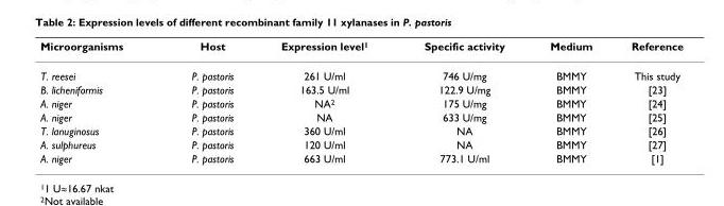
<table><thead><tr><td>Microorganisms</td><td>Host</td><td>Expression level<sup>1</sup></td><td>Specific activity</td><td>Medium</td><td>Reference</td></tr></thead><tbody><tr><td>T. reesei</td><td>P. pastoris</td><td>261 U/ml</td><td>746 U/mg</td><td>BMMY</td><td>This study</td></tr><tr><td>B. licheniformis</td><td>P. pastoris</td><td>163.5 U/ml</td><td>122.9 U/mg</td><td>BMMY</td><td>[23]</td></tr><tr><td>A. niger</td><td>P. pastoris</td><td>NA<sup>2</sup></td><td>175 U/mg</td><td>BMMY</td><td>[24]</td></tr><tr><td>A. niger</td><td>P. pastoris</td><td>NA</td><td>633 U/mg</td><td>BMMY</td><td>[25]</td></tr><tr><td>T. lanuginosus</td><td>P. pastoris</td><td>360 U/ml</td><td>NA</td><td>BMMY</td><td>[26]</td></tr><tr><td>A. sulphureus</td><td>P. pastoris</td><td>120 U/ml</td><td>NA</td><td>BMMY</td><td>[27]</td></tr><tr><td>A. niger</td><td>P. pastoris</td><td>663 U/ml</td><td>773.1 U/ml</td><td>BMMY</td><td>[1]</td></tr></tbody></table>